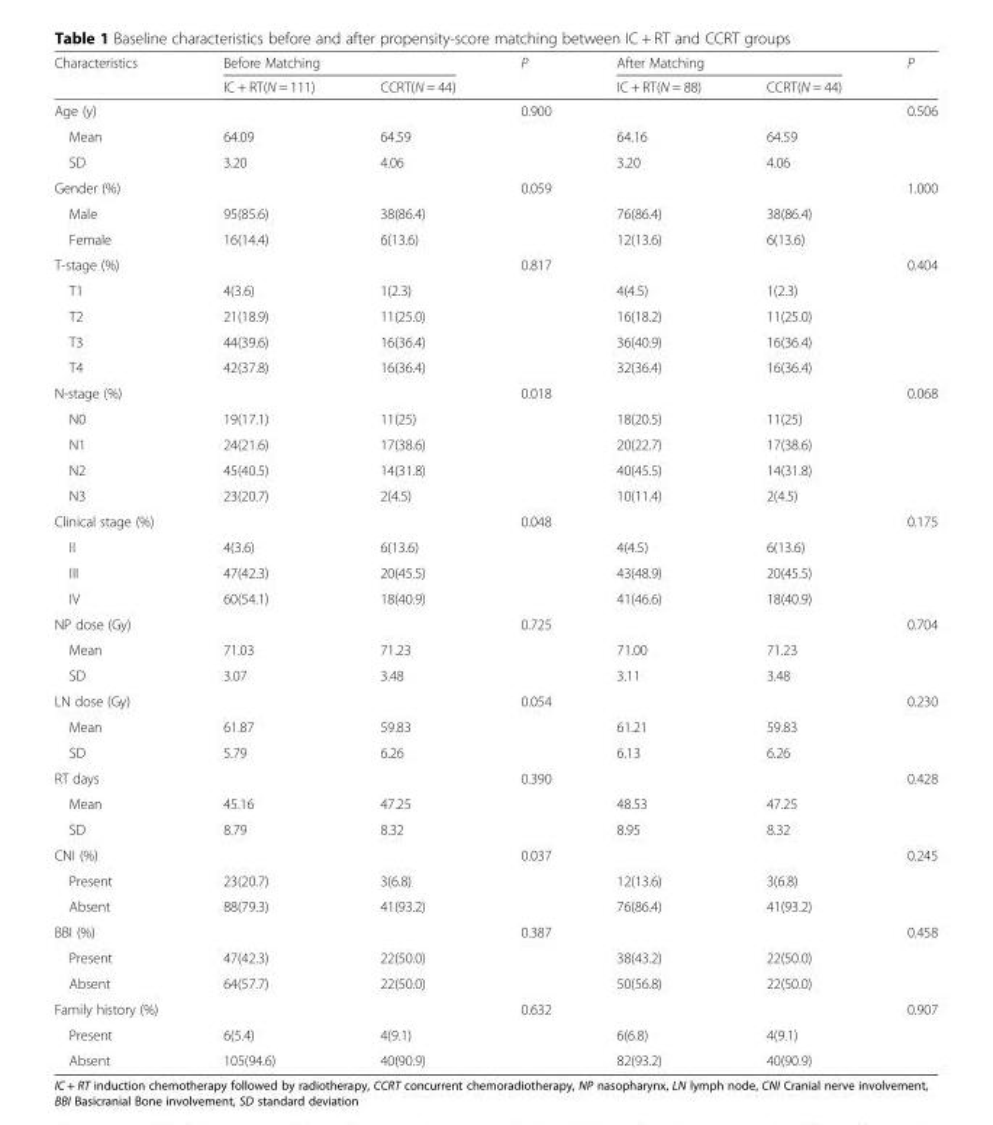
<table><thead><tr><td rowspan="2">Characteristics</td><td colspan="2">Before Matching</td><td rowspan="2">P</td><td colspan="2">After Matching</td><td rowspan="2">P</td></tr><tr><td>IC + RT(N = 111)</td><td>CCRT(N = 44)</td><td>IC + RT(N = 88)</td><td>CCRT(N = 44)</td></tr></thead><tbody><tr><td>Age (y)</td><td></td><td></td><td>0.900</td><td></td><td></td><td>0.506</td></tr><tr><td>Mean</td><td>64.09</td><td>64.59</td><td></td><td>64.16</td><td>64.59</td><td></td></tr><tr><td>SD</td><td>3.20</td><td>4.06</td><td></td><td>3.20</td><td>4.06</td><td></td></tr><tr><td>Gender (%)</td><td></td><td></td><td>0.059</td><td></td><td></td><td>1.000</td></tr><tr><td>Male</td><td>95(85.6)</td><td>38(86.4)</td><td></td><td>76(86.4)</td><td>38(86.4)</td><td></td></tr><tr><td>Female</td><td>16(14.4)</td><td>6(13.6)</td><td></td><td>12(13.6)</td><td>6(13.6)</td><td></td></tr><tr><td>T-stage (%)</td><td></td><td></td><td>0.817</td><td></td><td></td><td>0.404</td></tr><tr><td>T1</td><td>4(3.6)</td><td>1(2.3)</td><td></td><td>4(4.5)</td><td>1(2.3)</td><td></td></tr><tr><td>T2</td><td>21(18.9)</td><td>11(25.0)</td><td></td><td>16(18.2)</td><td>11(25.0)</td><td></td></tr><tr><td>T3</td><td>44(39.6)</td><td>16(36.4)</td><td></td><td>36(40.9)</td><td>16(36.4)</td><td></td></tr><tr><td>T4</td><td>42(37.8)</td><td>16(36.4)</td><td></td><td>32(36.4)</td><td>16(36.4)</td><td></td></tr><tr><td>N-stage (%)</td><td></td><td></td><td>0.018</td><td></td><td></td><td>0.068</td></tr><tr><td>N0</td><td>19(17.1)</td><td>11(25)</td><td></td><td>18(20.5)</td><td>11(25)</td><td></td></tr><tr><td>N1</td><td>24(21.6)</td><td>17(38.6)</td><td></td><td>20(22.7)</td><td>17(38.6)</td><td></td></tr><tr><td>N2</td><td>45(40.5)</td><td>14(31.8)</td><td></td><td>40(45.5)</td><td>14(31.8)</td><td></td></tr><tr><td>N3</td><td>23(20.7)</td><td>2(4.5)</td><td></td><td>10(11.4)</td><td>2(4.5)</td><td></td></tr><tr><td>Clinical stage (%)</td><td></td><td></td><td>0.048</td><td></td><td></td><td>0.175</td></tr><tr><td>II</td><td>4(3.6)</td><td>6(13.6)</td><td></td><td>4(4.5)</td><td>6(13.6)</td><td></td></tr><tr><td>III</td><td>47(42.3)</td><td>20(45.5)</td><td></td><td>43(48.9)</td><td>20(45.5)</td><td></td></tr><tr><td>IV</td><td>60(54.1)</td><td>18(40.9)</td><td></td><td>41(46.6)</td><td>18(40.9)</td><td></td></tr><tr><td>NP dose (Gy)</td><td></td><td></td><td>0.725</td><td></td><td></td><td>0.704</td></tr><tr><td>Mean</td><td>71.03</td><td>71.23</td><td></td><td>71.00</td><td>71.23</td><td></td></tr><tr><td>SD</td><td>3.07</td><td>3.48</td><td></td><td>3.11</td><td>3.48</td><td></td></tr><tr><td>LN dose (Gy)</td><td></td><td></td><td>0.054</td><td></td><td></td><td>0.230</td></tr><tr><td>Mean</td><td>61.87</td><td>59.83</td><td></td><td>61.21</td><td>59.83</td><td></td></tr><tr><td>SD</td><td>5.79</td><td>6.26</td><td></td><td>6.13</td><td>6.26</td><td></td></tr><tr><td>RT days</td><td></td><td></td><td>0.390</td><td></td><td></td><td>0.428</td></tr><tr><td>Mean</td><td>45.16</td><td>47.25</td><td></td><td>48.53</td><td>47.25</td><td></td></tr><tr><td>SD</td><td>8.79</td><td>8.32</td><td></td><td>8.95</td><td>8.32</td><td></td></tr><tr><td>CNI (%)</td><td></td><td></td><td>0.037</td><td></td><td></td><td>0.245</td></tr><tr><td>Present</td><td>23(20.7)</td><td>3(6.8)</td><td></td><td>12(13.6)</td><td>3(6.8)</td><td></td></tr><tr><td>Absent</td><td>88(79.3)</td><td>41(93.2)</td><td></td><td>76(86.4)</td><td>41(93.2)</td><td></td></tr><tr><td>BBI (%)</td><td></td><td></td><td>0.387</td><td></td><td></td><td>0.458</td></tr><tr><td>Present</td><td>47(42.3)</td><td>22(50.0)</td><td></td><td>38(43.2)</td><td>22(50.0)</td><td></td></tr><tr><td>Absent</td><td>64(57.7)</td><td>22(50.0)</td><td></td><td>50(56.8)</td><td>22(50.0)</td><td></td></tr><tr><td>Family history (%)</td><td></td><td></td><td>0.632</td><td></td><td></td><td>0.907</td></tr><tr><td>Present</td><td>6(5.4)</td><td>4(9.1)</td><td></td><td>6(6.8)</td><td>4(9.1)</td><td></td></tr><tr><td>Absent</td><td>105(94.6)</td><td>40(90.9)</td><td></td><td>82(93.2)</td><td>40(90.9)</td><td></td></tr></tbody></table>